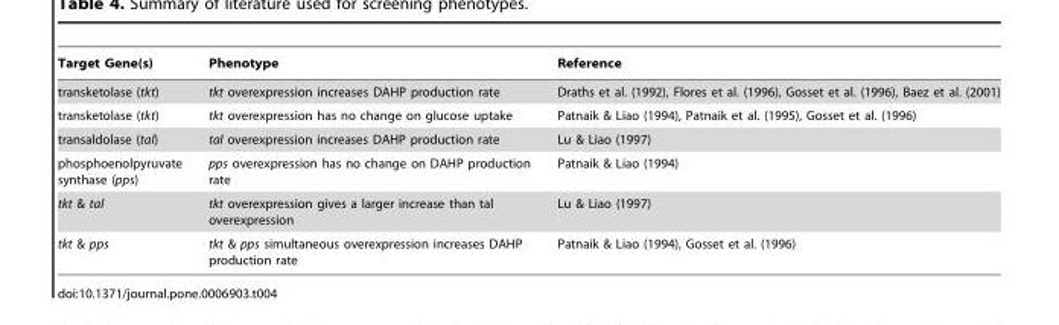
<table><thead><tr><td>Target Gene(s)</td><td>Phenotype</td><td>Reference</td></tr></thead><tbody><tr><td>transketolase (tkt)</td><td>tkt overexpression increases DAHP production rate</td><td>Draths et al. (1992), Flores et al. (1996), Gosset et al. (1996), Baez et al. (2001)</td></tr><tr><td>transketolase (tkt)</td><td>tkt overexpression has no change on glucose uptake</td><td>Patnaik &amp; Liao (1994), Patnaik et al. (1995), Gosset et al. (1996)</td></tr><tr><td>transaldolase (tal)</td><td>tal overexpression increases DAHP production rate</td><td>Lu &amp; Liao (1997)</td></tr><tr><td>phosphoenolpyruvate synthase (pps)</td><td>pps overexpression has no change on DAHP production rate</td><td>Patnaik &amp; Liao (1994)</td></tr><tr><td>tkt &amp; tal</td><td>tkt overexpression gives a larger increase than tal overexpression</td><td>Lu &amp; Liao (1997)</td></tr><tr><td>tkt &amp; pps</td><td>tkt &amp; pps simultaneous overexpression increases DAHP production rate</td><td>Patnaik &amp; Liao (1994), Gosset et al. (1996)</td></tr></tbody></table>